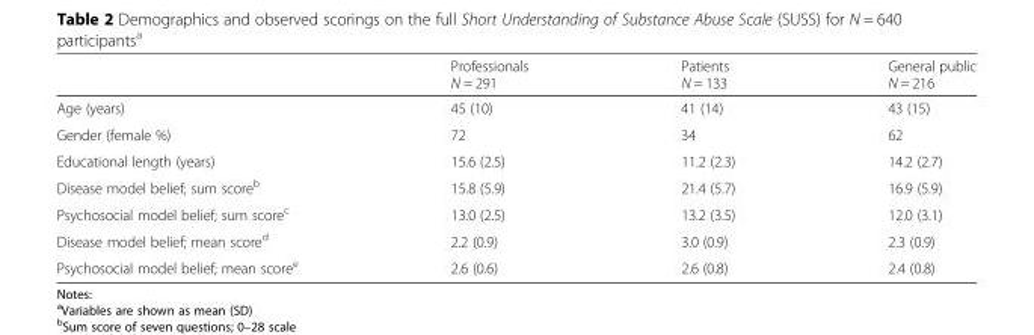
<table><thead><tr><td></td><td>Professionals N = 291</td><td>Patients N = 133</td><td>General public N = 216</td></tr></thead><tbody><tr><td>Age (years)</td><td>45 (10)</td><td>41 (14)</td><td>43 (15)</td></tr><tr><td>Gender (female %)</td><td>72</td><td>34</td><td>62</td></tr><tr><td>Educational length (years)</td><td>15.6 (2.5)</td><td>11.2 (2.3)</td><td>14.2 (2.7)</td></tr><tr><td>Disease model belief; sum score<sup>b</sup></td><td>15.8 (5.9)</td><td>21.4 (5.7)</td><td>16.9 (5.9)</td></tr><tr><td>Psychosocial model belief; sum score<sup>c</sup></td><td>13.0 (2.5)</td><td>13.2 (3.5)</td><td>12.0 (3.1)</td></tr><tr><td>Disease model belief; mean score<sup>d</sup></td><td>2.2 (0.9)</td><td>3.0 (0.9)</td><td>2.3 (0.9)</td></tr><tr><td>Psychosocial model belief; mean score<sup>e</sup></td><td>2.6 (0.6)</td><td>2.6 (0.8)</td><td>2.4 (0.8)</td></tr></tbody></table>